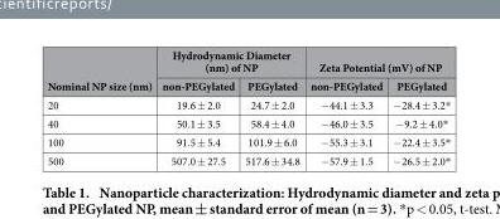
<table><thead><tr><td rowspan="2">Nominal NP size (nm)</td><td colspan="2">Hydrodynamic Diameter (nm) of NP</td><td colspan="2">Zeta Potential (mV) of NP</td></tr><tr><td>non-PEGylated</td><td>PEGylated</td><td>non-PEGylated</td><td>PEGylated</td></tr></thead><tbody><tr><td>20</td><td>19.6 ± 2.0</td><td>24.7 ± 2.0</td><td>− 44.1 ± 3.3</td><td>− 28.4 ± 3.2*</td></tr><tr><td>40</td><td>50.1 ± 3.5</td><td>58.4 ± 4.0</td><td>− 46.0 ± 3.5</td><td>− 9.2 ± 4.0*</td></tr><tr><td>100</td><td>91.5 ± 5.4</td><td>101.9 ± 6.0</td><td>− 55.3 ± 3.1</td><td>− 22.4 ± 3.5*</td></tr><tr><td>500</td><td>507.0 ± 27.5</td><td>517.6 ± 34.8</td><td>− 57.9 ± 1.5</td><td>− 26.5 ± 2.0*</td></tr></tbody></table>